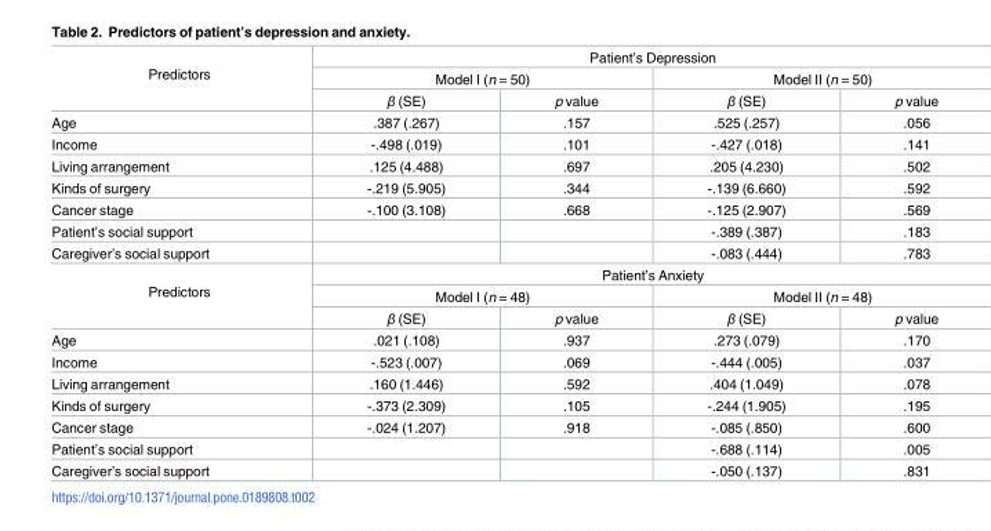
<table><tbody><tr><td rowspan="3">Predictors</td><td colspan="4">Patient’s Depression</td></tr><tr><td colspan="2">Model I (n = 50)</td><td colspan="2">Model II (n = 50)</td></tr><tr><td>β (SE)</td><td>p value</td><td>β (SE)</td><td>p value</td></tr><tr><td>Age</td><td>.387 (.267)</td><td>.157</td><td>.525 (.257)</td><td>.056</td></tr><tr><td>Income</td><td>-.498 (.019)</td><td>.101</td><td>-.427 (.018)</td><td>.141</td></tr><tr><td>Living arrangement</td><td>.125 (4.488)</td><td>.697</td><td>.205 (4.230)</td><td>.502</td></tr><tr><td>Kinds of surgery</td><td>-.219 (5.905)</td><td>.344</td><td>-.139 (6.660)</td><td>.592</td></tr><tr><td>Cancer stage</td><td>-.100 (3.108)</td><td>.668</td><td>-.125 (2.907)</td><td>.569</td></tr><tr><td>Patient’s social support</td><td></td><td></td><td>-.389 (.387)</td><td>.183</td></tr><tr><td>Caregiver’s social support</td><td></td><td></td><td>-.083 (.444)</td><td>.783</td></tr><tr><td rowspan="3">Predictors</td><td colspan="4">Patient’s Anxiety</td></tr><tr><td colspan="2">Model I (n = 48)</td><td colspan="2">Model II (n = 48)</td></tr><tr><td>β (SE)</td><td>p value</td><td>β (SE)</td><td>p value</td></tr><tr><td>Age</td><td>.021 (.108)</td><td>.937</td><td>.273 (.079)</td><td>.170</td></tr><tr><td>Income</td><td>-.523 (.007)</td><td>.069</td><td>-.444 (.005)</td><td>.037</td></tr><tr><td>Living arrangement</td><td>.160 (1.446)</td><td>.592</td><td>.404 (1.049)</td><td>.078</td></tr><tr><td>Kinds of surgery</td><td>-.373 (2.309)</td><td>.105</td><td>-.244 (1.905)</td><td>.195</td></tr><tr><td>Cancer stage</td><td>-.024 (1.207)</td><td>.918</td><td>-.085 (.850)</td><td>.600</td></tr><tr><td>Patient’s social support</td><td></td><td></td><td>-.688 (.114)</td><td>.005</td></tr><tr><td>Caregiver’s social support</td><td></td><td></td><td>-.050 (.137)</td><td>.831</td></tr></tbody></table>